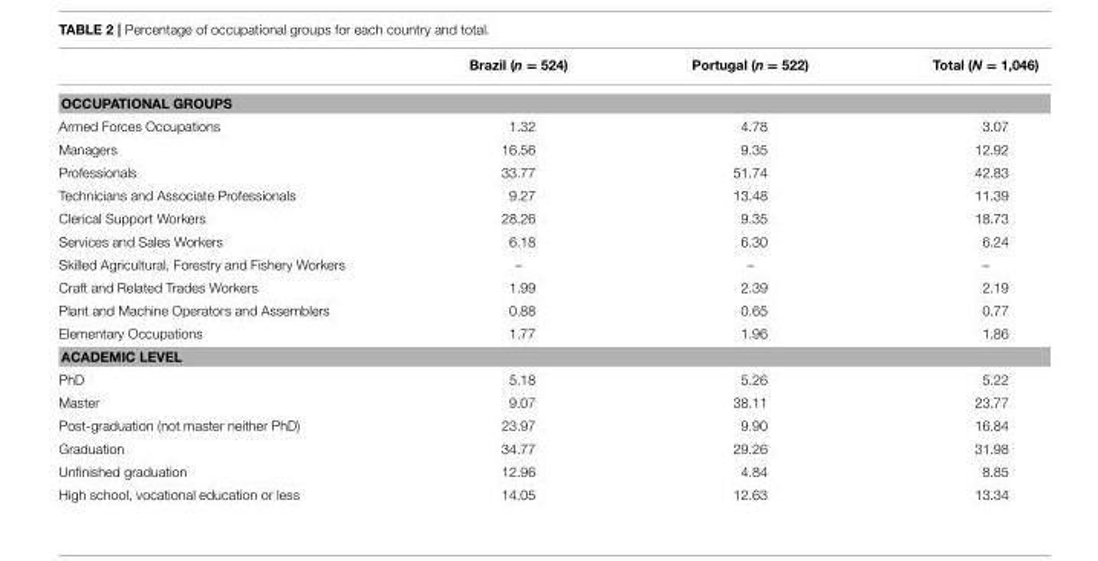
<table><thead><tr><td></td><td>Brazil (n = 524)</td><td>Portugal (n = 522)</td><td>Total (N = 1,046)</td></tr></thead><tbody><tr><td colspan="4">OCCUPATIONAL GROUPS</td></tr><tr><td>Armed Forces Occupations</td><td>1.32</td><td>4.78</td><td>3.07</td></tr><tr><td>Managers</td><td>16.56</td><td>9.35</td><td>12.92</td></tr><tr><td>Professionals</td><td>33.77</td><td>51.74</td><td>42.83</td></tr><tr><td>Technicians and Associate Professionals</td><td>9.27</td><td>13.48</td><td>11.39</td></tr><tr><td>Clerical Support Workers</td><td>28.26</td><td>9.35</td><td>18.73</td></tr><tr><td>Services and Sales Workers</td><td>6.18</td><td>6.30</td><td>6.24</td></tr><tr><td>Skilled Agricultural, Forestry and Fishery Workers</td><td>–</td><td>–</td><td>–</td></tr><tr><td>Craft and Related Trades Workers</td><td>1.99</td><td>2.39</td><td>2.19</td></tr><tr><td>Plant and Machine Operators and Assemblers</td><td>0.88</td><td>0.65</td><td>0.77</td></tr><tr><td>Elementary Occupations</td><td>1.77</td><td>1.96</td><td>1.86</td></tr><tr><td colspan="4">ACADEMIC LEVEL</td></tr><tr><td>PhD</td><td>5.18</td><td>5.26</td><td>5.22</td></tr><tr><td>Master</td><td>9.07</td><td>38.11</td><td>23.77</td></tr><tr><td>Post-graduation (not master neither PhD)</td><td>23.97</td><td>9.90</td><td>16.84</td></tr><tr><td>Graduation</td><td>34.77</td><td>29.26</td><td>31.98</td></tr><tr><td>Unfinished graduation</td><td>12.96</td><td>4.84</td><td>8.85</td></tr><tr><td>High school, vocational education or less</td><td>14.05</td><td>12.63</td><td>13.34</td></tr></tbody></table>